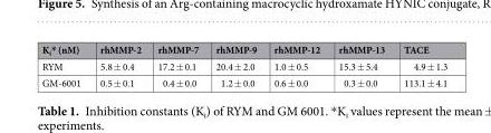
<table><thead><tr><td>K<sub>i</sub>* (nM)</td><td>rhMMP-2</td><td>rhMMP-7</td><td>rhMMP-9</td><td>rhMMP-12</td><td>rhMMP-13</td><td>TACE</td></tr></thead><tbody><tr><td>RYM</td><td>5.8 ± 0.4</td><td>17.2 ± 0.1</td><td>20.4 ± 2.0</td><td>1.0 ± 0.5</td><td>15.3 ± 5.4</td><td>4.9 ± 1.3</td></tr><tr><td>GM-6001</td><td>0.5 ± 0.1</td><td>0.4 ± 0.0</td><td>1.2 ± 0.0</td><td>0.6 ± 0.0</td><td>0.3 ± 0.0</td><td>113.1 ± 4.1</td></tr></tbody></table>